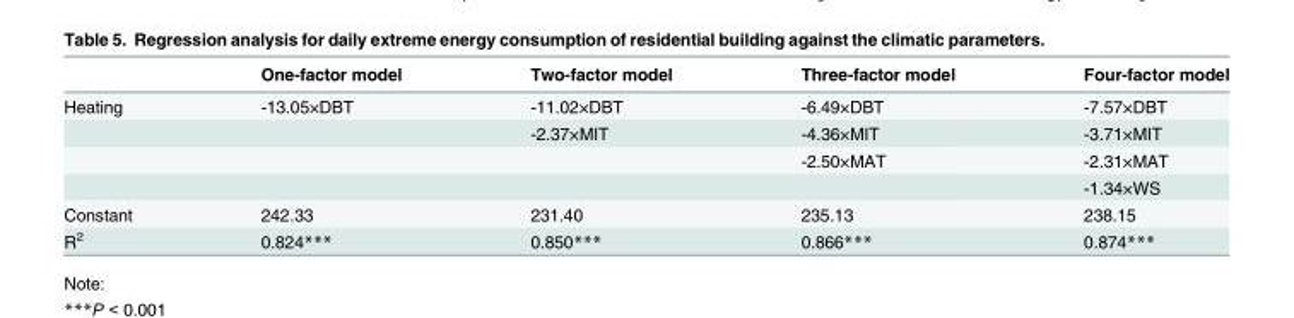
<table><thead><tr><td></td><td>One-factor model</td><td>Two-factor model</td><td>Three-factor model</td><td>Four-factor model</td></tr></thead><tbody><tr><td rowspan="4">Heating</td><td>-13.05×DBT</td><td>-11.02×DBT</td><td>-6.49×DBT</td><td>-7.57×DBT</td></tr><tr><td></td><td>-2.37×MIT</td><td>-4.36×MIT</td><td>-3.71×MIT</td></tr><tr><td></td><td></td><td>-2.50×MAT</td><td>-2.31×MAT</td></tr><tr><td></td><td></td><td></td><td>-1.34×WS</td></tr><tr><td>Constant</td><td>242.33</td><td>231.40</td><td>235.13</td><td>238.15</td></tr><tr><td>R<sup>2</sup></td><td>0.824***</td><td>0.850***</td><td>0.866***</td><td>0.874***</td></tr></tbody></table>